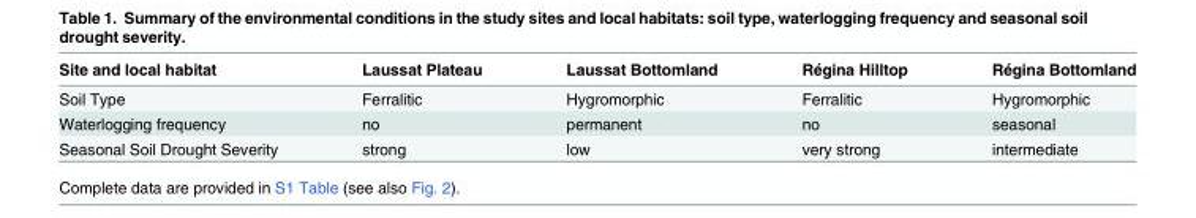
<table><thead><tr><td>Site and local habitat</td><td>Laussat Plateau</td><td>Laussat Bottomland</td><td>Régina Hilltop</td><td>Régina Bottomland</td></tr></thead><tbody><tr><td>Soil Type</td><td>Ferralitic</td><td>Hygromorphic</td><td>Ferralitic</td><td>Hygromorphic</td></tr><tr><td>Waterlogging frequency</td><td>no</td><td>permanent</td><td>no</td><td>seasonal</td></tr><tr><td>Seasonal Soil Drought Severity</td><td>strong</td><td>low</td><td>very strong</td><td>intermediate</td></tr></tbody></table>